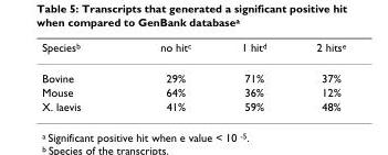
<table><thead><tr><td>Speciesb</td><td>no hitc</td><td>1 hitd</td><td>2 hitse</td></tr></thead><tbody><tr><td>Bovine</td><td>29%</td><td>71%</td><td>37%</td></tr><tr><td>Mouse</td><td>64%</td><td>36%</td><td>12%</td></tr><tr><td>X. laevis</td><td>41%</td><td>59%</td><td>48%</td></tr></tbody></table>